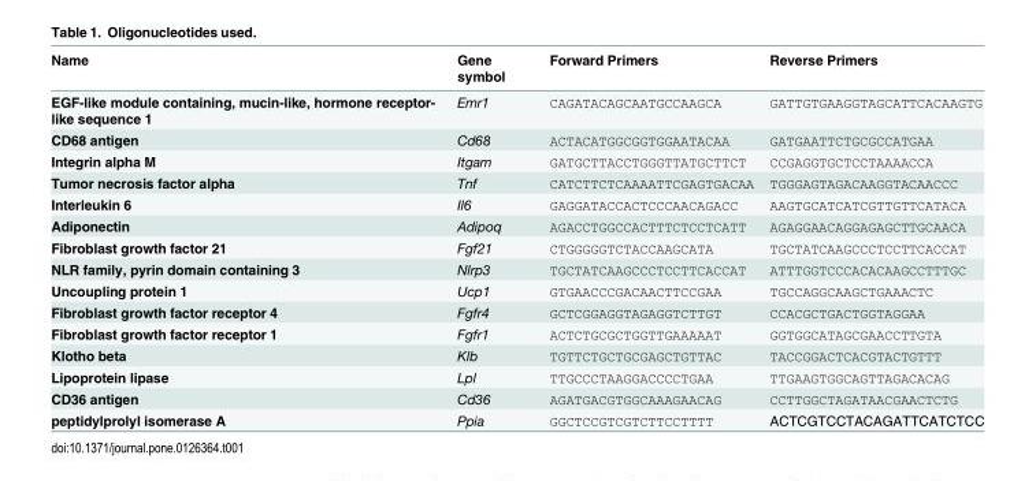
<table><thead><tr><td>Name</td><td>Gene symbol</td><td>Forward Primers</td><td>Reverse Primers</td></tr></thead><tbody><tr><td>EGF-like module containing, mucin-like, hormone receptor- like sequence 1</td><td>Emr1</td><td>CAGATACAGCAATGCCAAGCA</td><td>GATTGTGAAGGTAGCATTCACAAGTG</td></tr><tr><td>CD68 antigen</td><td>Cd68</td><td>ACTACATGGCGGTGGAATACAA</td><td>GATGAATTCTGCGCCATGAA</td></tr><tr><td>Integrin alpha M</td><td>Itgam</td><td>GATGCTTACCTGGGTTATGCTTCT</td><td>CCGAGGTGCTCCTAAAACCA</td></tr><tr><td>Tumor necrosis factor alpha</td><td>Tnf</td><td>CATCTTCTCAAAATTCGAGTGACAA</td><td>TGGGAGTAGACAAGGTACAACCC</td></tr><tr><td>Interleukin 6</td><td>Il6</td><td>GAGGATACCACTCCCAACAGACC</td><td>AAGTGCATCATCGTTGTTCATACA</td></tr><tr><td>Adiponectin</td><td>Adipoq</td><td>AGACCTGGCCACTTTCTCCTCATT</td><td>AGAGGAACAGGAGAGCTTGCAACA</td></tr><tr><td>Fibroblast growth factor 21</td><td>Fgf21</td><td>CTGGGGGTCTACCAAGCATA</td><td>TGCTATCAAGCCCTCCTTCACCAT</td></tr><tr><td>NLR family, pyrin domain containing 3</td><td>Nlrp3</td><td>TGCTATCAAGCCCTCCTTCACCAT</td><td>ATTTGGTCCCACACAAGCCTTTGC</td></tr><tr><td>Uncoupling protein 1</td><td>Ucp1</td><td>GTGAACCCGACAACTTCCGAA</td><td>TGCCAGGCAAGCTGAAACTC</td></tr><tr><td>Fibroblast growth factor receptor 4</td><td>Fgfr4</td><td>GCTCGGAGGTAGAGGTCTTGT</td><td>CCACGCTGACTGGTAGGAA</td></tr><tr><td>Fibroblast growth factor receptor 1</td><td>Fgfr1</td><td>ACTCTGCGCTGGTTGAAAAAT</td><td>GGTGGCATAGCGAACCTTGTA</td></tr><tr><td>Klotho beta</td><td>Klb</td><td>TGTTCTGCTGCGAGCTGTTAC</td><td>TACCGGACTCACGTACTGTTT</td></tr><tr><td>Lipoprotein lipase</td><td>Lpl</td><td>TTGCCCTAAGGACCCCTGAA</td><td>TTGAAGTGGCAGTTAGACACAG</td></tr><tr><td>CD36 antigen</td><td>Cd36</td><td>AGATGACGTGGCAAAGAACAG</td><td>CCTTGGCTAGATAACGAACTCTG</td></tr><tr><td>peptidylprolyl isomerase A</td><td>Ppia</td><td>GGCTCCGTCGTCTTCCTTTT</td><td>ACTCGTCCTACAGATTCATCTCC</td></tr></tbody></table>